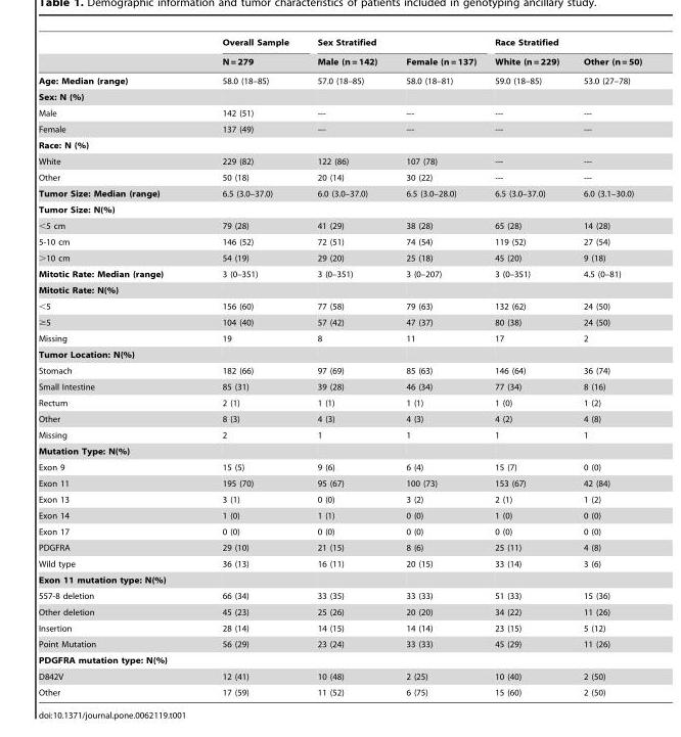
<table><thead><tr><td rowspan="2"></td><td rowspan="2">Overall Sample N = 279</td><td colspan="2">Sex Stratified</td><td colspan="2">Race Stratified</td></tr><tr><td>Male (n = 142)</td><td>Female (n = 137)</td><td>White (n = 229)</td><td>Other (n = 50)</td></tr></thead><tbody><tr><td>Age: Median (range)</td><td>58.0 (18–85)</td><td>57.0 (18–85)</td><td>58.0 (18–81)</td><td>59.0 (18–85)</td><td>53.0 (27–78)</td></tr><tr><td colspan="6">Sex: N (%)</td></tr><tr><td>Male</td><td>142 (51)</td><td>---</td><td>---</td><td>---</td><td>---</td></tr><tr><td>Female</td><td>137 (49)</td><td>---</td><td>---</td><td>---</td><td>---</td></tr><tr><td colspan="6">Race: N (%)</td></tr><tr><td>White</td><td>229 (82)</td><td>122 (86)</td><td>107 (78)</td><td>---</td><td>---</td></tr><tr><td>Other</td><td>50 (18)</td><td>20 (14)</td><td>30 (22)</td><td>---</td><td>---</td></tr><tr><td>Tumor Size: Median (range)</td><td>6.5 (3.0–37.0)</td><td>6.0 (3.0–37.0)</td><td>6.5 (3.0–28.0)</td><td>6.5 (3.0–37.0)</td><td>6.0 (3.1–30.0)</td></tr><tr><td colspan="6">Tumor Size: N(%)</td></tr><tr><td>&lt;5 cm</td><td>79 (28)</td><td>41 (29)</td><td>38 (28)</td><td>65 (28)</td><td>14 (28)</td></tr><tr><td>5-10 cm</td><td>146 (52)</td><td>72 (51)</td><td>74 (54)</td><td>119 (52)</td><td>27 (54)</td></tr><tr><td>&gt;10 cm</td><td>54 (19)</td><td>29 (20)</td><td>25 (18)</td><td>45 (20)</td><td>9 (18)</td></tr><tr><td>Mitotic Rate: Median (range)</td><td>3 (0–351)</td><td>3 (0–351)</td><td>3 (0–207)</td><td>3 (0–351)</td><td>4.5 (0–81)</td></tr><tr><td colspan="6">Mitotic Rate: N(%)</td></tr><tr><td>&lt;5</td><td>156 (60)</td><td>77 (58)</td><td>79 (63)</td><td>132 (62)</td><td>24 (50)</td></tr><tr><td>≥5</td><td>104 (40)</td><td>57 (42)</td><td>47 (37)</td><td>80 (38)</td><td>24 (50)</td></tr><tr><td>Missing</td><td>19</td><td>8</td><td>11</td><td>17</td><td>2</td></tr><tr><td colspan="6">Tumor Location: N(%)</td></tr><tr><td>Stomach</td><td>182 (66)</td><td>97 (69)</td><td>85 (63)</td><td>146 (64)</td><td>36 (74)</td></tr><tr><td>Small Intestine</td><td>85 (31)</td><td>39 (28)</td><td>46 (34)</td><td>77 (34)</td><td>8 (16)</td></tr><tr><td>Rectum</td><td>2 (1)</td><td>1 (1)</td><td>1 (1)</td><td>1 (0)</td><td>1 (2)</td></tr><tr><td>Other</td><td>8 (3)</td><td>4 (3)</td><td>4 (3)</td><td>4 (2)</td><td>4 (8)</td></tr><tr><td>Missing</td><td>2</td><td>1</td><td>1</td><td>1</td><td>1</td></tr><tr><td colspan="6">Mutation Type: N(%)</td></tr><tr><td>Exon 9</td><td>15 (5)</td><td>9 (6)</td><td>6 (4)</td><td>15 (7)</td><td>0 (0)</td></tr><tr><td>Exon 11</td><td>195 (70)</td><td>95 (67)</td><td>100 (73)</td><td>153 (67)</td><td>42 (84)</td></tr><tr><td>Exon 13</td><td>3 (1)</td><td>0 (0)</td><td>3 (2)</td><td>2 (1)</td><td>1 (2)</td></tr><tr><td>Exon 14</td><td>1 (0)</td><td>1 (1)</td><td>0 (0)</td><td>1 (0)</td><td>0 (0)</td></tr><tr><td>Exon 17</td><td>0 (0)</td><td>0 (0)</td><td>0 (0)</td><td>0 (0)</td><td>0 (0)</td></tr><tr><td>PDGFRA</td><td>29 (10)</td><td>21 (15)</td><td>8 (6)</td><td>25 (11)</td><td>4 (8)</td></tr><tr><td>Wild type</td><td>36 (13)</td><td>16 (11)</td><td>20 (15)</td><td>33 (14)</td><td>3 (6)</td></tr><tr><td colspan="6">Exon 11 mutation type: N(%)</td></tr><tr><td>557-8 deletion</td><td>66 (34)</td><td>33 (35)</td><td>33 (33)</td><td>51 (33)</td><td>15 (36)</td></tr><tr><td>Other deletion</td><td>45 (23)</td><td>25 (26)</td><td>20 (20)</td><td>34 (22)</td><td>11 (26)</td></tr><tr><td>Insertion</td><td>28 (14)</td><td>14 (15)</td><td>14 (14)</td><td>23 (15)</td><td>5 (12)</td></tr><tr><td>Point Mutation</td><td>56 (29)</td><td>23 (24)</td><td>33 (33)</td><td>45 (29)</td><td>11 (26)</td></tr><tr><td colspan="6">PDGFRA mutation type: N(%)</td></tr><tr><td>D842V</td><td>12 (41)</td><td>10 (48)</td><td>2 (25)</td><td>10 (40)</td><td>2 (50)</td></tr><tr><td>Other</td><td>17 (59)</td><td>11 (52)</td><td>6 (75)</td><td>15 (60)</td><td>2 (50)</td></tr></tbody></table>